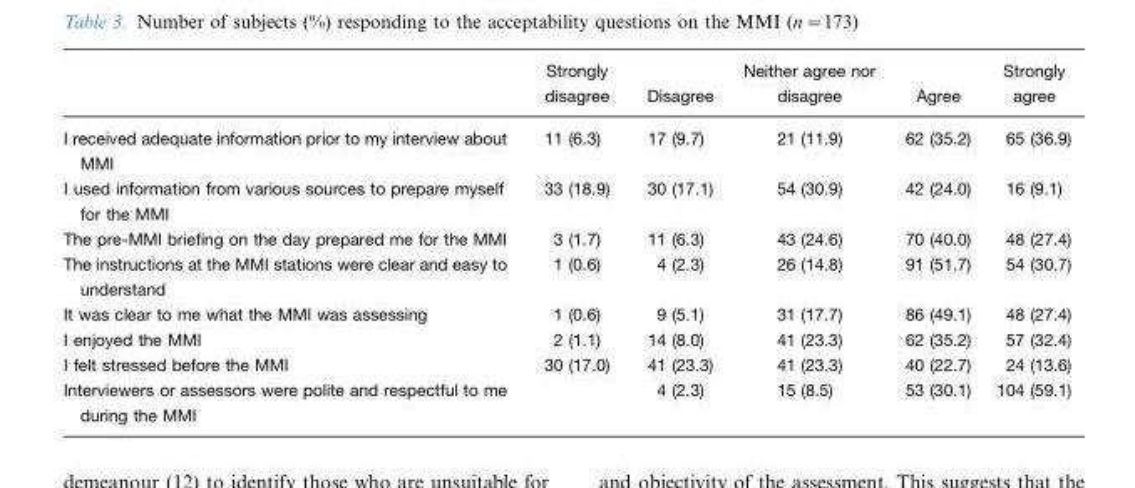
<table><thead><tr><td></td><td>Strongly disagree</td><td>Disagree</td><td>Neither agree nor disagree</td><td>Agree</td><td>Strongly agree</td></tr></thead><tbody><tr><td>I received adequate information prior to my interview about MMI</td><td>11 (6.3)</td><td>17 (9.7)</td><td>21 (11.9)</td><td>62 (35.2)</td><td>65 (36.9)</td></tr><tr><td>I used information from various sources to prepare myself for the MMI</td><td>33 (18.9)</td><td>30 (17.1)</td><td>54 (30.9)</td><td>42 (24.0)</td><td>16 (9.1)</td></tr><tr><td>The pre-MMI briefing on the day prepared me for the MMI</td><td>3 (1.7)</td><td>11 (6.3)</td><td>43 (24.6)</td><td>70 (40.0)</td><td>48 (27.4)</td></tr><tr><td>The instructions at the MMI stations were clear and easy to understand</td><td>1 (0.6)</td><td>4 (2.3)</td><td>26 (14.8)</td><td>91 (51.7)</td><td>54 (30.7)</td></tr><tr><td>It was clear to me what the MMI was assessing</td><td>1 (0.6)</td><td>9 (5.1)</td><td>31 (17.7)</td><td>86 (49.1)</td><td>48 (27.4)</td></tr><tr><td>I enjoyed the MMI</td><td>2 (1.1)</td><td>14 (8.0)</td><td>41 (23.3)</td><td>62 (35.2)</td><td>57 (32.4)</td></tr><tr><td>I felt stressed before the MMI</td><td>30 (17.0)</td><td>41 (23.3)</td><td>41 (23.3)</td><td>40 (22.7)</td><td>24 (13.6)</td></tr><tr><td>Interviewers or assessors were polite and respectful to me during the MMI</td><td></td><td>4 (2.3)</td><td>15 (8.5)</td><td>53 (30.1)</td><td>104 (59.1)</td></tr></tbody></table>